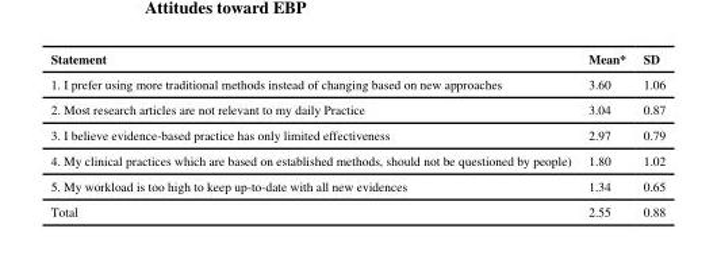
<table><thead><tr><td>Statement</td><td>Mean*</td><td>SD</td></tr></thead><tbody><tr><td>1. I prefer using more traditional methods instead of changing based on new approaches</td><td>3.60</td><td>1.06</td></tr><tr><td>2. Most research articles are not relevant to my daily Practice</td><td>3.04</td><td>0.87</td></tr><tr><td>3. I believe evidence-based practice has only limited effectiveness</td><td>2.97</td><td>0.79</td></tr><tr><td>4. My clinical practices which are based on established methods, should not be questioned by people)</td><td>1.80</td><td>1.02</td></tr><tr><td>5. My workload is too high to keep up-to-date with all new evidences</td><td>1.34</td><td>0.65</td></tr><tr><td>Total</td><td>2.55</td><td>0.88</td></tr></tbody></table>